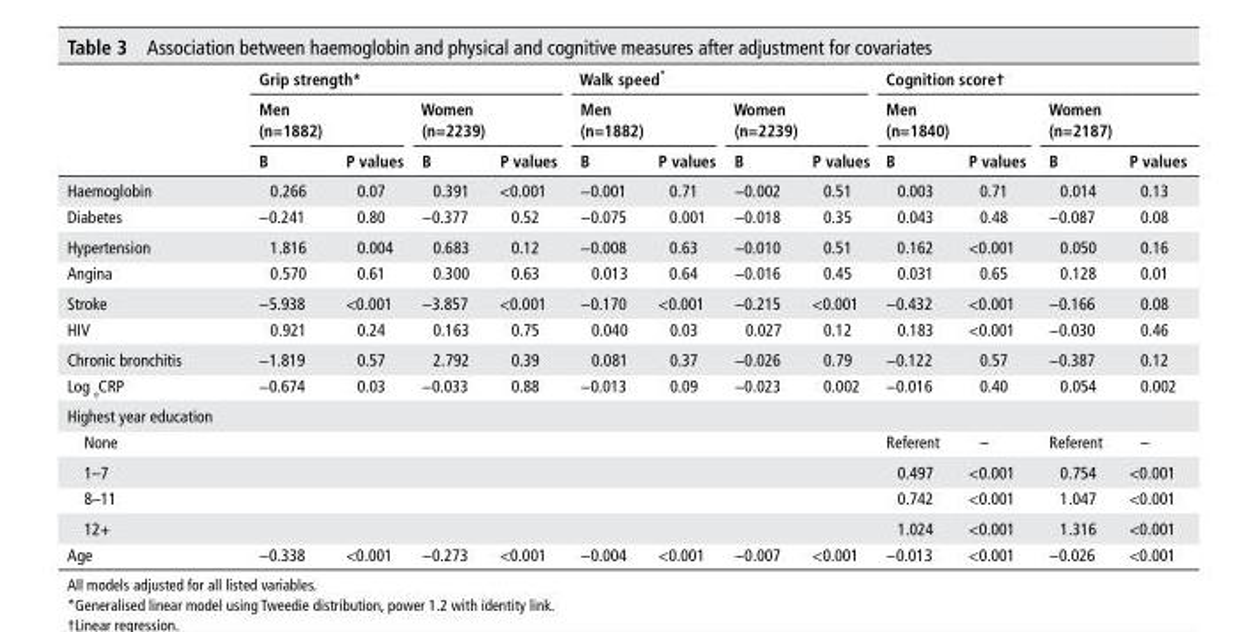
<table><thead><tr><td rowspan="3"></td><td colspan="4">Grip strength*</td><td colspan="4">Walk speed*</td><td colspan="4">Cognition score†</td></tr><tr><td colspan="2">Men (n=1882)</td><td colspan="2">Women (n=2239)</td><td colspan="2">Men (n=1882)</td><td colspan="2">Women (n=2239)</td><td colspan="2">Men (n=1840)</td><td colspan="2">Women (n=2187)</td></tr><tr><td>b</td><td>P values</td><td>b</td><td>P values</td><td>b</td><td>P values</td><td>b</td><td>P values</td><td>b</td><td>P values</td><td>b</td><td>P values</td></tr></thead><tbody><tr><td>Haemoglobin</td><td>0.266</td><td>0.07</td><td>0.391</td><td>&lt;0.001</td><td>−0.001</td><td>0.71</td><td>−0.002</td><td>0.51</td><td>0.003</td><td>0.71</td><td>0.014</td><td>0.13</td></tr><tr><td>Diabetes</td><td>−0.241</td><td>0.80</td><td>−0.377</td><td>0.52</td><td>−0.075</td><td>0.001</td><td>−0.018</td><td>0.35</td><td>0.043</td><td>0.48</td><td>−0.087</td><td>0.08</td></tr><tr><td>Hypertension</td><td>1.816</td><td>0.004</td><td>0.683</td><td>0.12</td><td>−0.008</td><td>0.63</td><td>−0.010</td><td>0.51</td><td>0.162</td><td>&lt;0.001</td><td>0.050</td><td>0.16</td></tr><tr><td>Angina</td><td>0.570</td><td>0.61</td><td>0.300</td><td>0.63</td><td>0.013</td><td>0.64</td><td>−0.016</td><td>0.45</td><td>0.031</td><td>0.65</td><td>0.128</td><td>0.01</td></tr><tr><td>Stroke</td><td>−5.938</td><td>&lt;0.001</td><td>−3.857</td><td>&lt;0.001</td><td>−0.170</td><td>&lt;0.001</td><td>−0.215</td><td>&lt;0.001</td><td>−0.432</td><td>&lt;0.001</td><td>−0.166</td><td>0.08</td></tr><tr><td>HIV</td><td>0.921</td><td>0.24</td><td>0.163</td><td>0.75</td><td>0.040</td><td>0.03</td><td>0.027</td><td>0.12</td><td>0.183</td><td>&lt;0.001</td><td>−0.030</td><td>0.46</td></tr><tr><td>Chronic bronchitis</td><td>−1.819</td><td>0.57</td><td>2.792</td><td>0.39</td><td>0.081</td><td>0.37</td><td>−0.026</td><td>0.79</td><td>−0.122</td><td>0.57</td><td>−0.387</td><td>0.12</td></tr><tr><td>Log <sub>e</sub>CRP</td><td>−0.674</td><td>0.03</td><td>−0.033</td><td>0.88</td><td>−0.013</td><td>0.09</td><td>−0.023</td><td>0.002</td><td>−0.016</td><td>0.40</td><td>0.054</td><td>0.002</td></tr><tr><td colspan="13">Highest year education</td></tr><tr><td>None</td><td></td><td></td><td></td><td></td><td></td><td></td><td></td><td></td><td>Referent</td><td>–</td><td>Referent</td><td>–</td></tr><tr><td>1–7</td><td></td><td></td><td></td><td></td><td></td><td></td><td></td><td></td><td>0.497</td><td>&lt;0.001</td><td>0.754</td><td>&lt;0.001</td></tr><tr><td>8–11</td><td></td><td></td><td></td><td></td><td></td><td></td><td></td><td></td><td>0.742</td><td>&lt;0.001</td><td>1.047</td><td>&lt;0.001</td></tr><tr><td>12+</td><td></td><td></td><td></td><td></td><td></td><td></td><td></td><td></td><td>1.024</td><td>&lt;0.001</td><td>1.316</td><td>&lt;0.001</td></tr><tr><td>Age</td><td>−0.338</td><td>&lt;0.001</td><td>−0.273</td><td>&lt;0.001</td><td>−0.004</td><td>&lt;0.001</td><td>−0.007</td><td>&lt;0.001</td><td>−0.013</td><td>&lt;0.001</td><td>−0.026</td><td>&lt;0.001</td></tr></tbody></table>